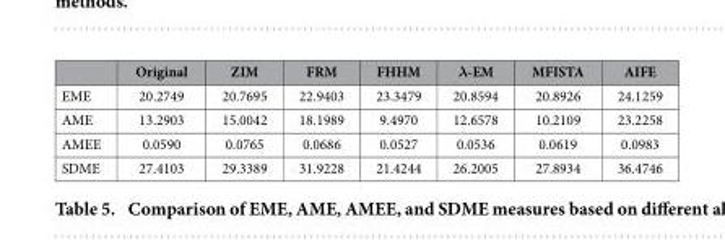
<table><thead><tr><td></td><td>Original</td><td>ZIM</td><td>FRM</td><td>FHHM</td><td>λ-EM</td><td>MFISTA</td><td>AIFE</td></tr></thead><tbody><tr><td>EME</td><td>20.2749</td><td>20.7695</td><td>22.9403</td><td>23.3479</td><td>20.8594</td><td>20.8926</td><td>24.1259</td></tr><tr><td>AME</td><td>13.2903</td><td>15.0042</td><td>18.1989</td><td>9.4970</td><td>12.6578</td><td>10.2109</td><td>23.2258</td></tr><tr><td>AMEE</td><td>0.0590</td><td>0.0765</td><td>0.0686</td><td>0.0527</td><td>0.0536</td><td>0.0619</td><td>0.0983</td></tr><tr><td>SDME</td><td>27.4103</td><td>29.3389</td><td>31.9228</td><td>21.4244</td><td>26.2005</td><td>27.8934</td><td>36.4746</td></tr></tbody></table>